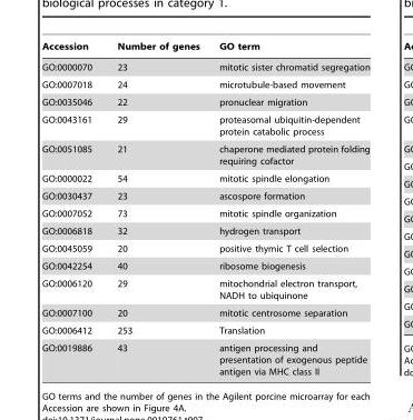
<table><thead><tr><td>Accession</td><td>Number of genes</td><td>GO term</td></tr></thead><tbody><tr><td>GO:0000070</td><td>23</td><td>mitotic sister chromatid segregation</td></tr><tr><td>GO:0007018</td><td>24</td><td>microtubule-based movement</td></tr><tr><td>GO:0035046</td><td>22</td><td>pronuclear migration</td></tr><tr><td>GO:0043161</td><td>29</td><td>proteasomal ubiquitin-dependent protein catabolic process</td></tr><tr><td>GO:0051085</td><td>21</td><td>chaperone mediated protein folding requiring cofactor</td></tr><tr><td>GO:0000022</td><td>54</td><td>mitotic spindle elongation</td></tr><tr><td>GO:0030437</td><td>23</td><td>ascospore formation</td></tr><tr><td>GO:0007052</td><td>73</td><td>mitotic spindle organization</td></tr><tr><td>GO:0006818</td><td>32</td><td>hydrogen transport</td></tr><tr><td>GO:0045059</td><td>20</td><td>positive thymic T cell selection</td></tr><tr><td>GO:0042254</td><td>40</td><td>ribosome biogenesis</td></tr><tr><td>GO:0006120</td><td>29</td><td>mitochondrial electron transport, NADH to ubiquinone</td></tr><tr><td>GO:0007100</td><td>20</td><td>mitotic centrosome separation</td></tr><tr><td>GO:0006412</td><td>253</td><td>Translation</td></tr><tr><td>GO:0019886</td><td>43</td><td>antigen processing and presentation of exogenous peptide antigen via MHC class II</td></tr></tbody></table>